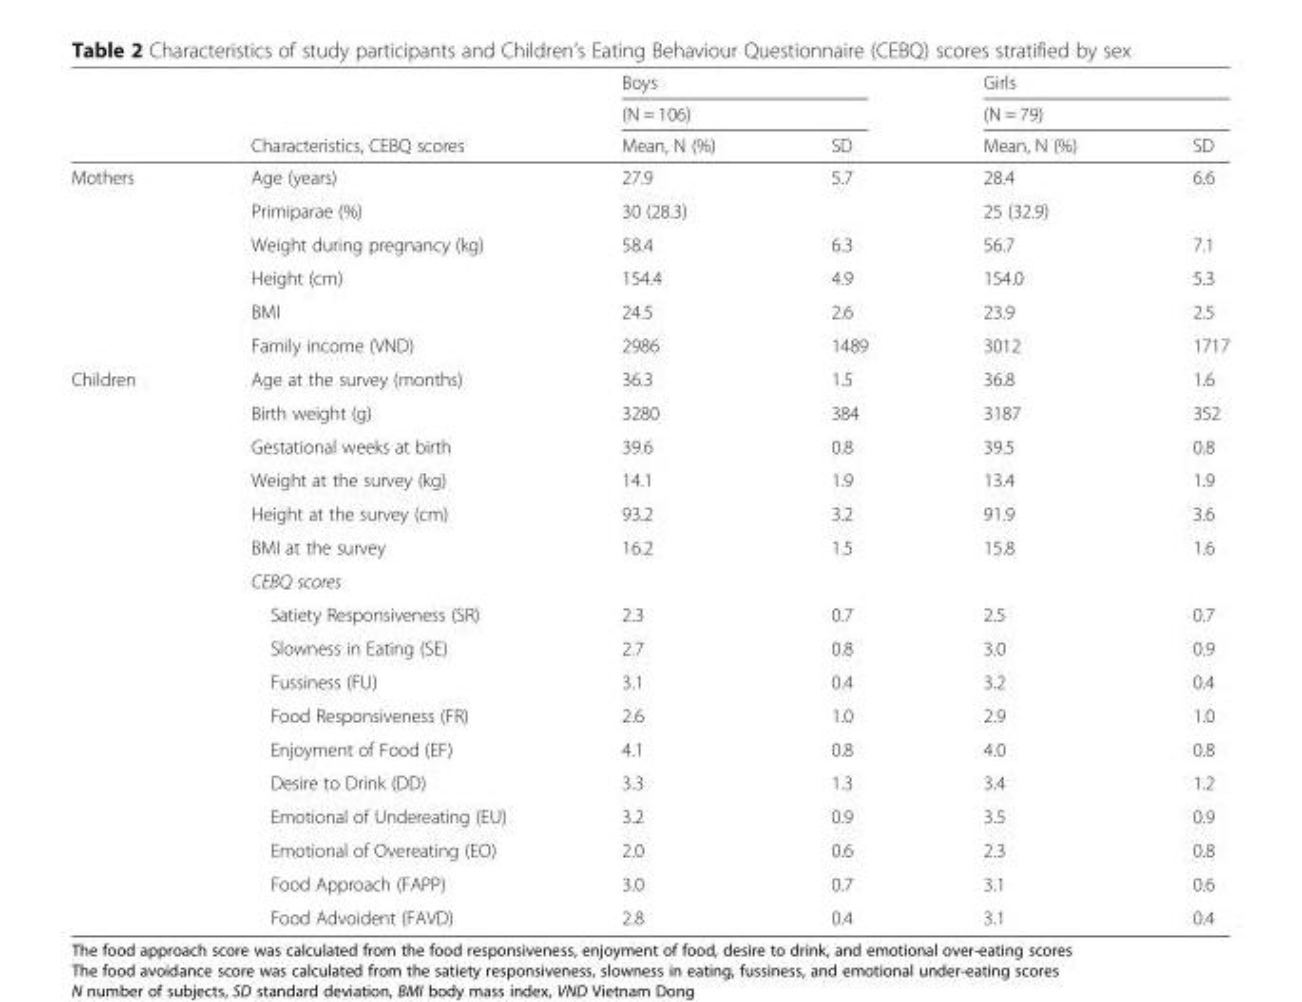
<table><thead><tr><td rowspan="3"></td><td rowspan="3">Characteristics, CEBQ scores</td><td rowspan="2" colspan="2">Boys (N = 106)</td><td rowspan="2" colspan="2">Girls (N = 79)</td></tr><tr></tr><tr><td>Mean, N (%)</td><td>SD</td><td>Mean, N (%)</td><td>SD</td></tr></thead><tbody><tr><td rowspan="6">Mothers</td><td>Age (years)</td><td>27.9</td><td>5.7</td><td>28.4</td><td>6.6</td></tr><tr><td>Primiparae (%)</td><td>30 (28.3)</td><td></td><td>25 (32.9)</td><td></td></tr><tr><td>Weight during pregnancy (kg)</td><td>58.4</td><td>6.3</td><td>56.7</td><td>7.1</td></tr><tr><td>Height (cm)</td><td>154.4</td><td>4.9</td><td>154.0</td><td>5.3</td></tr><tr><td>BMI</td><td>24.5</td><td>2.6</td><td>23.9</td><td>2.5</td></tr><tr><td>Family income (VND)</td><td>2986</td><td>1489</td><td>3012</td><td>1717</td></tr><tr><td rowspan="17">Children</td><td>Age at the survey (months)</td><td>36.3</td><td>1.5</td><td>36.8</td><td>1.6</td></tr><tr><td>Birth weight (g)</td><td>3280</td><td>384</td><td>3187</td><td>352</td></tr><tr><td>Gestational weeks at birth</td><td>39.6</td><td>0.8</td><td>39.5</td><td>0.8</td></tr><tr><td>Weight at the survey (kg)</td><td>14.1</td><td>1.9</td><td>13.4</td><td>1.9</td></tr><tr><td>Height at the survey (cm)</td><td>93.2</td><td>3.2</td><td>91.9</td><td>3.6</td></tr><tr><td>BMI at the survey</td><td>16.2</td><td>1.5</td><td>15.8</td><td>1.6</td></tr><tr><td colspan="5">CEBQ scores</td></tr><tr><td>Satiety Responsiveness (SR)</td><td>2.3</td><td>0.7</td><td>2.5</td><td>0.7</td></tr><tr><td>Slowness in Eating (SE)</td><td>2.7</td><td>0.8</td><td>3.0</td><td>0.9</td></tr><tr><td>Fussiness (FU)</td><td>3.1</td><td>0.4</td><td>3.2</td><td>0.4</td></tr><tr><td>Food Responsiveness (FR)</td><td>2.6</td><td>1.0</td><td>2.9</td><td>1.0</td></tr><tr><td>Enjoyment of Food (EF)</td><td>4.1</td><td>0.8</td><td>4.0</td><td>0.8</td></tr><tr><td>Desire to Drink (DD)</td><td>3.3</td><td>1.3</td><td>3.4</td><td>1.2</td></tr><tr><td>Emotional of Undereating (EU)</td><td>3.2</td><td>0.9</td><td>3.5</td><td>0.9</td></tr><tr><td>Emotional of Overeating (EO)</td><td>2.0</td><td>0.6</td><td>2.3</td><td>0.8</td></tr><tr><td>Food Approach (FAPP)</td><td>3.0</td><td>0.7</td><td>3.1</td><td>0.6</td></tr><tr><td>Food Advoident (FAVD)</td><td>2.8</td><td>0.4</td><td>3.1</td><td>0.4</td></tr></tbody></table>